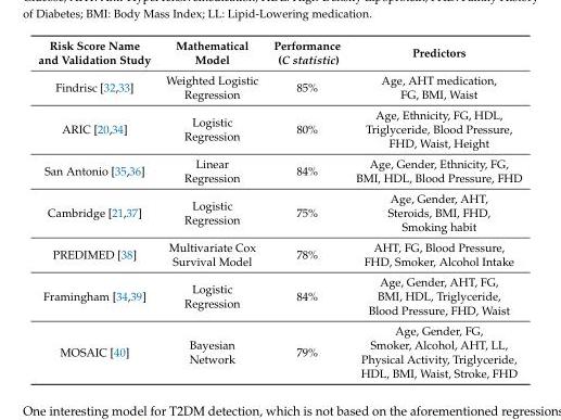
<table><thead><tr><td>Risk Score Name and Validation Study</td><td>Mathematical Model</td><td>Performance (C statistic)</td><td>Predictors</td></tr></thead><tbody><tr><td>Findrisc [32,33]</td><td>Weighted Logistic Regression</td><td>85%</td><td>Age, AHT medication, FG, BMI, Waist</td></tr><tr><td>ARIC [20,34]</td><td>Logistic Regression</td><td>80%</td><td>Age, Ethnicity, FG, HDL, Triglyceride, Blood Pressure, FHD, Waist, Height</td></tr><tr><td>San Antonio [35,36]</td><td>Linear Regression</td><td>84%</td><td>Age, Gender, Ethnicity, FG, BMI, HDL, Blood Pressure, FHD</td></tr><tr><td>Cambridge [21,37]</td><td>Logistic Regression</td><td>75%</td><td>Age, Gender, AHT, Steroids, BMI, FHD, Smoking habit</td></tr><tr><td>PREDIMED [38]</td><td>Multivariate Cox Survival Model</td><td>78%</td><td>AHT, FG, Blood Pressure, FHD, Smoker, Alcohol Intake</td></tr><tr><td>Framingham [34,39]</td><td>Logistic Regression</td><td>84%</td><td>Age, Gender, AHT, FG, BMI, HDL, Triglyceride, Blood Pressure, FHD, Waist</td></tr><tr><td>MOSAIC [40]</td><td>Bayesian Network</td><td>79%</td><td>Age, Gender, FG, Smoker, Alcohol, AHT, LL, Physical Activity, Triglyceride, HDL, BMI, Waist, Stroke, FHD</td></tr></tbody></table>